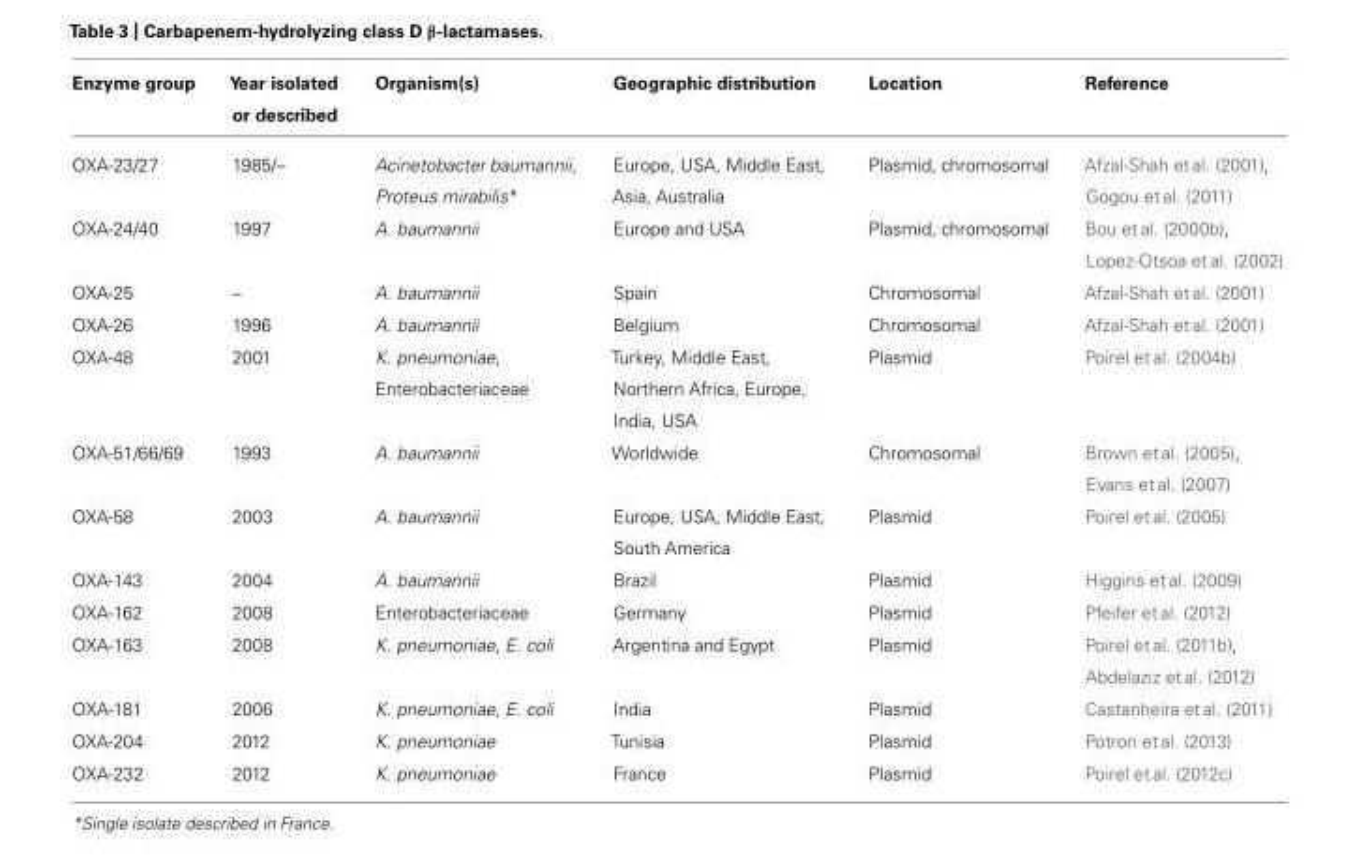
<table><thead><tr><td>Enzyme group</td><td>Year isolated or described</td><td>Organism(s)</td><td>Geographic distribution</td><td>Location</td><td>Reference</td></tr></thead><tbody><tr><td>OXA-23/27</td><td>1985/–</td><td>Acinetobacter baumannii, Proteus mirabilis*</td><td>Europe, USA, Middle East, Asia, Australia</td><td>Plasmid, chromosomal</td><td>Afzal-Shah et al. (2001), Gogou et al. (2011)</td></tr><tr><td>OXA-24/40</td><td>1997</td><td>A. baumannii</td><td>Europe and USA</td><td>Plasmid, chromosomal</td><td>Bou et al. (2000b), Lopez-Otsoa et al. (2002)</td></tr><tr><td>OXA-25</td><td>–</td><td>A. baumannii</td><td>Spain</td><td>Chromosomal</td><td>Afzal-Shah et al. (2001)</td></tr><tr><td>OXA-26</td><td>1996</td><td>A. baumannii</td><td>Belgium</td><td>Chromosomal</td><td>Afzal-Shah et al. (2001)</td></tr><tr><td>OXA-48</td><td>2001</td><td>K. pneumoniae, Enterobacteriaceae</td><td>Turkey, Middle East, Northern Africa, Europe, India, USA</td><td>Plasmid</td><td>Poirel et al. (2004b)</td></tr><tr><td>OXA-51/66/69</td><td>1993</td><td>A. baumannii</td><td>Worldwide</td><td>Chromosomal</td><td>Brown et al. (2005), Evans et al. (2007)</td></tr><tr><td>OXA-58</td><td>2003</td><td>A. baumannii</td><td>Europe, USA, Middle East, South America</td><td>Plasmid</td><td>Poirel et al. (2005)</td></tr><tr><td>OXA-143</td><td>2004</td><td>A. baumannii</td><td>Brazil</td><td>Plasmid</td><td>Higgins et al. (2009)</td></tr><tr><td>OXA-162</td><td>2008</td><td>Enterobacteriaceae</td><td>Germany</td><td>Plasmid</td><td>Pfeifer et al. (2012)</td></tr><tr><td>OXA-163</td><td>2008</td><td>K. pneumoniae, E. coli</td><td>Argentina and Egypt</td><td>Plasmid</td><td>Poirel et al. (2011b), Abdelaziz et al. (2012)</td></tr><tr><td>OXA-181</td><td>2006</td><td>K. pneumoniae, E. coli</td><td>India</td><td>Plasmid</td><td>Castanheira et al. (2011)</td></tr><tr><td>OXA-204</td><td>2012</td><td>K. pneumoniae</td><td>Tunisia</td><td>Plasmid</td><td>Potron et al. (2013)</td></tr><tr><td>OXA-232</td><td>2012</td><td>K. pneumoniae</td><td>France</td><td>Plasmid</td><td>Poirel et al. (2012c)</td></tr></tbody></table>